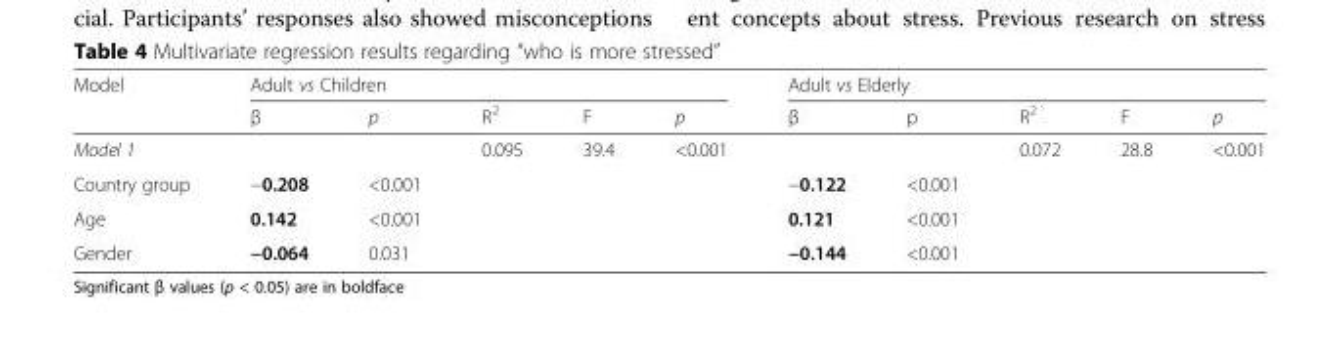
<table><thead><tr><td rowspan="2">Model</td><td colspan="5">Adult vs Children</td><td colspan="5">Adult vs Elderly</td></tr><tr><td>β</td><td>p</td><td>R<sup>2</sup></td><td>F</td><td>p</td><td>β</td><td>p</td><td>R<sup>2</sup></td><td>F</td><td>p</td></tr></thead><tbody><tr><td>Model 1</td><td></td><td></td><td>0.095</td><td>39.4</td><td>&lt;0.001</td><td></td><td></td><td>0.072</td><td>28.8</td><td>&lt;0.001</td></tr><tr><td>Country group</td><td>−0.208</td><td>&lt;0.001</td><td></td><td></td><td></td><td>−0.122</td><td>&lt;0.001</td><td></td><td></td><td></td></tr><tr><td>Age</td><td>0.142</td><td>&lt;0.001</td><td></td><td></td><td></td><td>0.121</td><td>&lt;0.001</td><td></td><td></td><td></td></tr><tr><td>Gender</td><td>−0.064</td><td>0.031</td><td></td><td></td><td></td><td>−0.144</td><td>&lt;0.001</td><td></td><td></td><td></td></tr></tbody></table>